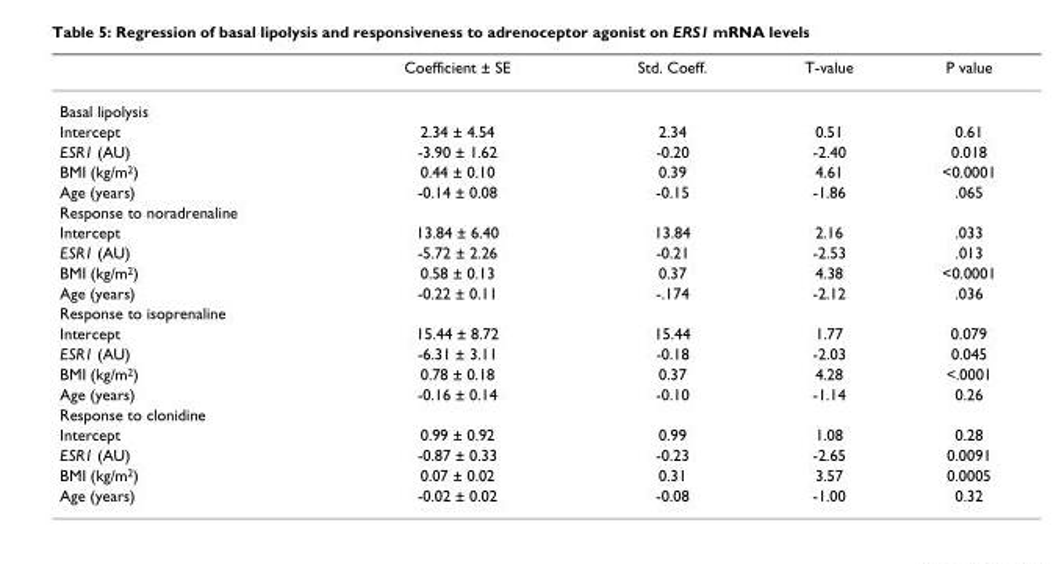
<table><thead><tr><td></td><td>Coefficient ± SE</td><td>Std. Coeff.</td><td>T-value</td><td>P value</td></tr></thead><tbody><tr><td colspan="5">Basal lipolysis</td></tr><tr><td>Intercept</td><td>2.34 ± 4.54</td><td>2.34</td><td>0.51</td><td>0.61</td></tr><tr><td>ESR1 (AU)</td><td>-3.90 ± 1.62</td><td>-0.20</td><td>-2.40</td><td>0.018</td></tr><tr><td>BMI (kg/m<sup>2</sup>)</td><td>0.44 ± 0.10</td><td>0.39</td><td>4.61</td><td>&lt;0.0001</td></tr><tr><td>Age (years)</td><td>-0.14 ± 0.08</td><td>-0.15</td><td>-1.86</td><td>.065</td></tr><tr><td colspan="5">Response to noradrenaline</td></tr><tr><td>Intercept</td><td>13.84 ± 6.40</td><td>13.84</td><td>2.16</td><td>.033</td></tr><tr><td>ESR1 (AU)</td><td>-5.72 ± 2.26</td><td>-0.21</td><td>-2.53</td><td>.013</td></tr><tr><td>BMI (kg/m<sup>2</sup>)</td><td>0.58 ± 0.13</td><td>0.37</td><td>4.38</td><td>&lt;0.0001</td></tr><tr><td>Age (years)</td><td>-0.22 ± 0.11</td><td>-.174</td><td>-2.12</td><td>.036</td></tr><tr><td colspan="5">Response to isoprenaline</td></tr><tr><td>Intercept</td><td>15.44 ± 8.72</td><td>15.44</td><td>1.77</td><td>0.079</td></tr><tr><td>ESR1 (AU)</td><td>-6.31 ± 3.11</td><td>-0.18</td><td>-2.03</td><td>0.045</td></tr><tr><td>BMI (kg/m<sup>2</sup>)</td><td>0.78 ± 0.18</td><td>0.37</td><td>4.28</td><td>&lt;.0001</td></tr><tr><td>Age (years)</td><td>-0.16 ± 0.14</td><td>-0.10</td><td>-1.14</td><td>0.26</td></tr><tr><td colspan="5">Response to clonidine</td></tr><tr><td>Intercept</td><td>0.99 ± 0.92</td><td>0.99</td><td>1.08</td><td>0.28</td></tr><tr><td>ESR1 (AU)</td><td>-0.87 ± 0.33</td><td>-0.23</td><td>-2.65</td><td>0.0091</td></tr><tr><td>BMI (kg/m<sup>2</sup>)</td><td>0.07 ± 0.02</td><td>0.31</td><td>3.57</td><td>0.0005</td></tr><tr><td>Age (years)</td><td>-0.02 ± 0.02</td><td>-0.08</td><td>-1.00</td><td>0.32</td></tr></tbody></table>